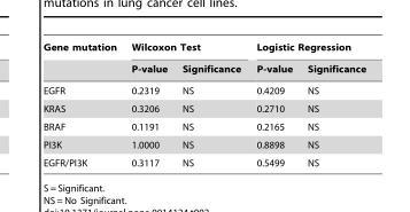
<table><thead><tr><td rowspan="2">Gene mutation</td><td colspan="2">Wilcoxon Test</td><td colspan="2">Logistic Regression</td></tr><tr><td>P-value</td><td>Significance</td><td>P-value</td><td>Significance</td></tr></thead><tbody><tr><td>EGFR</td><td>0.2319</td><td>NS</td><td>0.4209</td><td>NS</td></tr><tr><td>KRAS</td><td>0.3206</td><td>NS</td><td>0.2710</td><td>NS</td></tr><tr><td>BRAF</td><td>0.1191</td><td>NS</td><td>0.2165</td><td>NS</td></tr><tr><td>PI3K</td><td>1.0000</td><td>NS</td><td>0.8898</td><td>NS</td></tr><tr><td>EGFR/PI3K</td><td>0.3117</td><td>NS</td><td>0.5499</td><td>NS</td></tr></tbody></table>